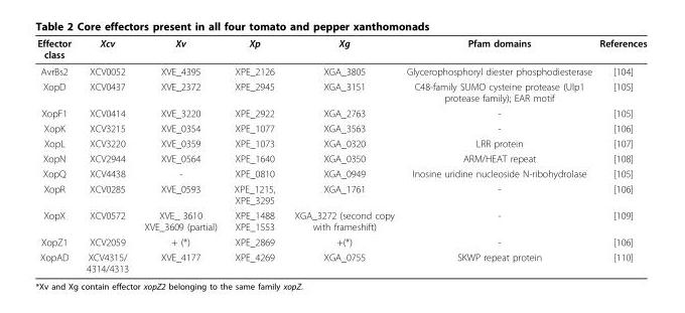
<table><thead><tr><td>Effector class</td><td>Xcv</td><td>Xv</td><td>Xp</td><td>Xg</td><td>Pfam domains</td><td>References</td></tr></thead><tbody><tr><td>AvrBs2</td><td>XCV0052</td><td>XVE_4395</td><td>XPE_2126</td><td>XGA_3805</td><td>Glycerophosphoryl diester phosphodiesterase</td><td>[104]</td></tr><tr><td>XopD</td><td>XCV0437</td><td>XVE_2372</td><td>XPE_2945</td><td>XGA_3151</td><td>C48-family SUMO cysteine protease (Ulp1 protease family); EAR motif</td><td>[105]</td></tr><tr><td>XopF1</td><td>XCV0414</td><td>XVE_3220</td><td>XPE_2922</td><td>XGA_2763</td><td>-</td><td>[105]</td></tr><tr><td>XopK</td><td>XCV3215</td><td>XVE_0354</td><td>XPE_1077</td><td>XGA_3563</td><td>-</td><td>[106]</td></tr><tr><td>XopL</td><td>XCV3220</td><td>XVE_0359</td><td>XPE_1073</td><td>XGA_0320</td><td>LRR protein</td><td>[107]</td></tr><tr><td>XopN</td><td>XCV2944</td><td>XVE_0564</td><td>XPE_1640</td><td>XGA_0350</td><td>ARM/HEAT repeat</td><td>[108]</td></tr><tr><td>XopQ</td><td>XCV4438</td><td>-</td><td>XPE_0810</td><td>XGA_0949</td><td>Inosine uridine nucleoside N-ribohydrolase</td><td>[105]</td></tr><tr><td>XopR</td><td>XCV0285</td><td>XVE_0593</td><td>XPE_1215, XPE_3295</td><td>XGA_1761</td><td>-</td><td>[106]</td></tr><tr><td>XopX</td><td>XCV0572</td><td>XVE_ 3610 XVE_3609 (partial)</td><td>XPE_1488 XPE_1553</td><td>XGA_3272 (second copy with frameshift)</td><td>-</td><td>[109]</td></tr><tr><td>XopZ1</td><td>XCV2059</td><td>+ (*)</td><td>XPE_2869</td><td>+(*)</td><td>-</td><td>[106]</td></tr><tr><td>XopAD</td><td>XCV4315/ 4314/4313</td><td>XVE_4177</td><td>XPE_4269</td><td>XGA_0755</td><td>SKWP repeat protein</td><td>[110]</td></tr></tbody></table>